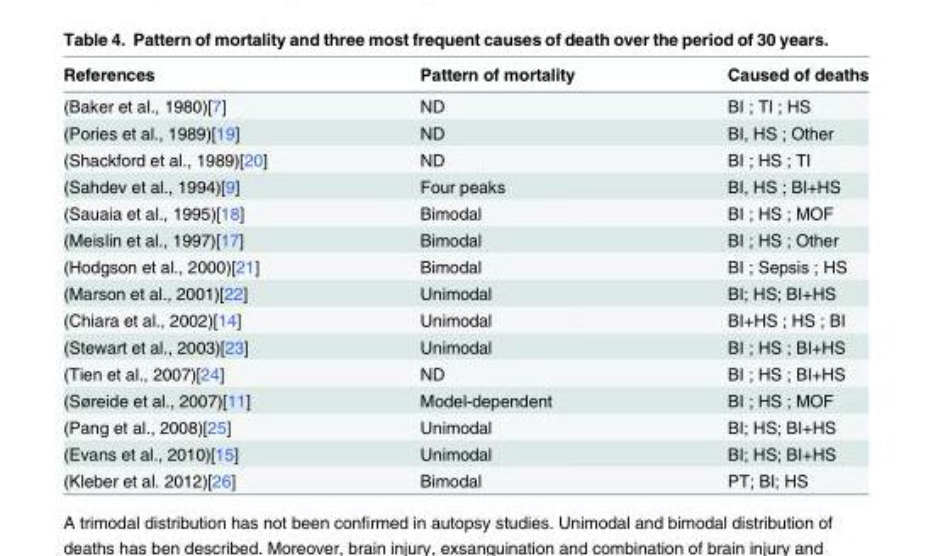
<table><thead><tr><td>References</td><td>Pattern of mortality</td><td>Caused of deaths</td></tr></thead><tbody><tr><td>(Baker et al., 1980)[7]</td><td>ND</td><td>BI ; TI ; HS</td></tr><tr><td>(Pories et al., 1989)[19]</td><td>ND</td><td>BI, HS ; Other</td></tr><tr><td>(Shackford et al., 1989)[20]</td><td>ND</td><td>BI ; HS ; TI</td></tr><tr><td>(Sahdev et al., 1994)[9]</td><td>Four peaks</td><td>BI, HS ; BI+HS</td></tr><tr><td>(Sauaia et al., 1995)[18]</td><td>Bimodal</td><td>BI ; HS ; MOF</td></tr><tr><td>(Meislin et al., 1997)[17]</td><td>Bimodal</td><td>BI ; HS ; Other</td></tr><tr><td>(Hodgson et al., 2000)[21]</td><td>Bimodal</td><td>BI ; Sepsis ; HS</td></tr><tr><td>(Marson et al., 2001)[22]</td><td>Unimodal</td><td>BI; HS; BI+HS</td></tr><tr><td>(Chiara et al., 2002)[14]</td><td>Unimodal</td><td>BI+HS ; HS ; BI</td></tr><tr><td>(Stewart et al., 2003)[23]</td><td>Unimodal</td><td>BI ; HS ; BI+HS</td></tr><tr><td>(Tien et al., 2007)[24]</td><td>ND</td><td>BI ; HS ; BI+HS</td></tr><tr><td>(Søreide et al., 2007)[11]</td><td>Model-dependent</td><td>BI ; HS ; MOF</td></tr><tr><td>(Pang et al., 2008)[25]</td><td>Unimodal</td><td>BI; HS; BI+HS</td></tr><tr><td>(Evans et al., 2010)[15]</td><td>Unimodal</td><td>BI; HS; BI+HS</td></tr><tr><td>(Kleber et al. 2012)[26]</td><td>Bimodal</td><td>PT; BI; HS</td></tr></tbody></table>